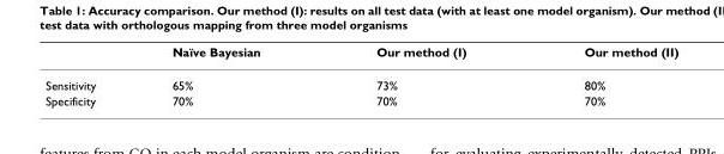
<table><thead><tr><td></td><td>Naïve Bayesian</td><td>Our method (I)</td><td>Our method (II)</td></tr></thead><tbody><tr><td>Sensitivity</td><td>65%</td><td>73%</td><td>80%</td></tr><tr><td>Specificity</td><td>70%</td><td>70%</td><td>70%</td></tr></tbody></table>